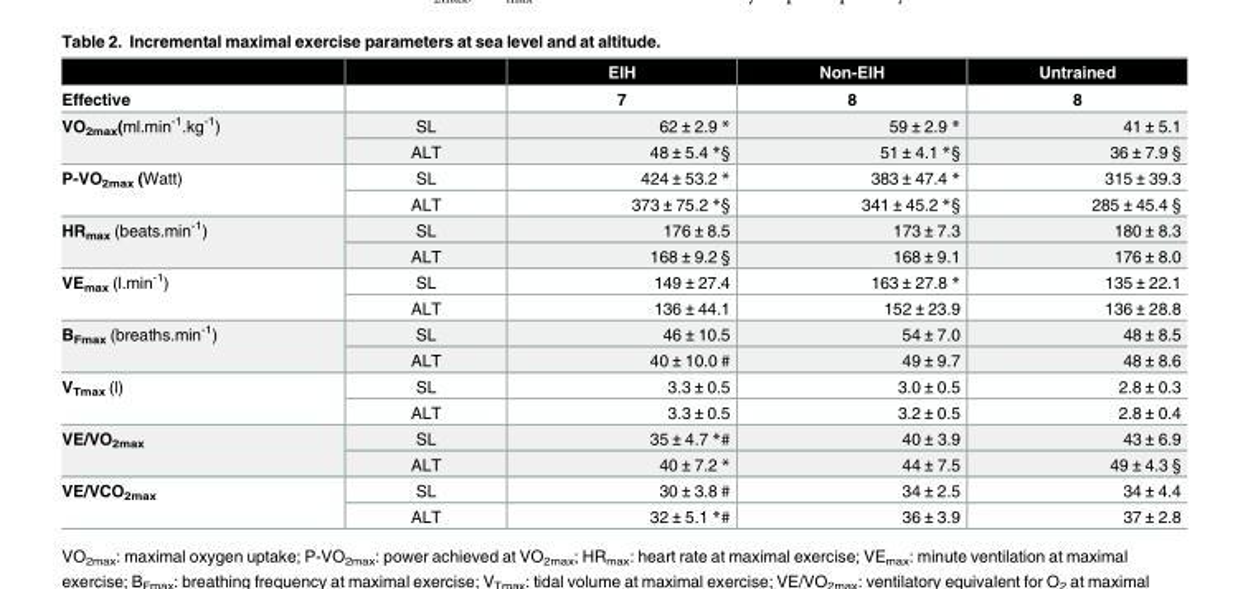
<table><thead><tr><td rowspan="2">Effective</td><td rowspan="2"></td><td rowspan="2">EIH 7</td><td rowspan="2">Non-EIH 8</td><td rowspan="2">Untrained 8</td></tr><tr></tr></thead><tbody><tr><td rowspan="2">VO<sub>2max</sub>(ml.min<sup>-1</sup>.kg<sup>-1</sup>)</td><td>SL</td><td>62 ± 2.9 *</td><td>59 ± 2.9 *</td><td>41 ± 5.1</td></tr><tr><td>ALT</td><td>48 ± 5.4 *§</td><td>51 ± 4.1 *§</td><td>36 ± 7.9 §</td></tr><tr><td rowspan="2">P-VO<sub>2max</sub> (Watt)</td><td>SL</td><td>424 ± 53.2 *</td><td>383 ± 47.4 *</td><td>315 ± 39.3</td></tr><tr><td>ALT</td><td>373 ± 75.2 *§</td><td>341 ± 45.2 *§</td><td>285 ± 45.4 §</td></tr><tr><td rowspan="2">HR<sub>max</sub> (beats.min<sup>-1</sup>)</td><td>SL</td><td>176 ± 8.5</td><td>173 ± 7.3</td><td>180 ± 8.3</td></tr><tr><td>ALT</td><td>168 ± 9.2 §</td><td>168 ± 9.1</td><td>176 ± 8.0</td></tr><tr><td rowspan="2">VE<sub>max</sub> (l.min<sup>-1</sup>)</td><td>SL</td><td>149 ± 27.4</td><td>163 ± 27.8 *</td><td>135 ± 22.1</td></tr><tr><td>ALT</td><td>136 ± 44.1</td><td>152 ± 23.9</td><td>136 ± 28.8</td></tr><tr><td rowspan="2">B<sub>Fmax</sub> (breaths.min<sup>-1</sup>)</td><td>SL</td><td>46 ± 10.5</td><td>54 ± 7.0</td><td>48 ± 8.5</td></tr><tr><td>ALT</td><td>40 ± 10.0 #</td><td>49 ± 9.7</td><td>48 ± 8.6</td></tr><tr><td rowspan="2">V<sub>Tmax</sub> (l)</td><td>SL</td><td>3.3 ± 0.5</td><td>3.0 ± 0.5</td><td>2.8 ± 0.3</td></tr><tr><td>ALT</td><td>3.3 ± 0.5</td><td>3.2 ± 0.5</td><td>2.8 ± 0.4</td></tr><tr><td rowspan="2">VE/VO<sub>2max</sub></td><td>SL</td><td>35 ± 4.7 *#</td><td>40 ± 3.9</td><td>43 ± 6.9</td></tr><tr><td>ALT</td><td>40 ± 7.2 *</td><td>44 ± 7.5</td><td>49 ± 4.3 §</td></tr><tr><td rowspan="2">VE/VCO<sub>2max</sub></td><td>SL</td><td>30 ± 3.8 #</td><td>34 ± 2.5</td><td>34 ± 4.4</td></tr><tr><td>ALT</td><td>32 ± 5.1 *#</td><td>36 ± 3.9</td><td>37 ± 2.8</td></tr></tbody></table>